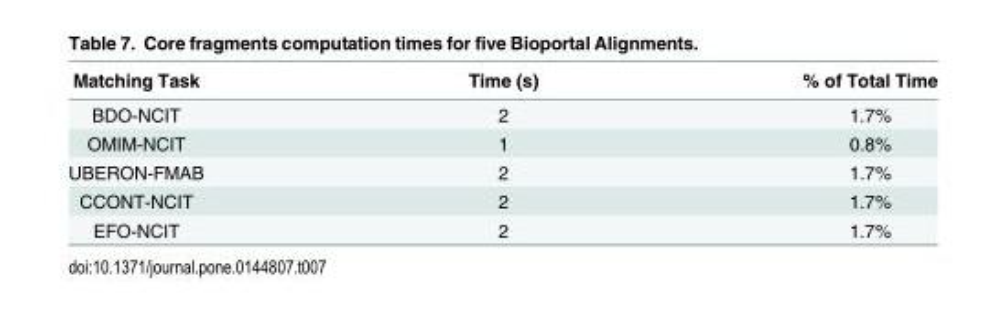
<table><thead><tr><td>Matching Task</td><td>Time (s)</td><td>% of Total Time</td></tr></thead><tbody><tr><td>BDO-NCIT</td><td>2</td><td>1.7%</td></tr><tr><td>OMIM-NCIT</td><td>1</td><td>0.8%</td></tr><tr><td>UBERON-FMAB</td><td>2</td><td>1.7%</td></tr><tr><td>CCONT-NCIT</td><td>2</td><td>1.7%</td></tr><tr><td>EFO-NCIT</td><td>2</td><td>1.7%</td></tr></tbody></table>